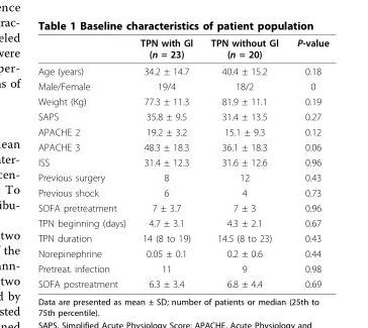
<table><thead><tr><td></td><td>TPN with Gl (n = 23)</td><td>TPN without Gl (n = 20)</td><td>P-value</td></tr></thead><tbody><tr><td>Age (years)</td><td>34.2 ± 14.7</td><td>40.4 ± 15.2</td><td>0.18</td></tr><tr><td>Male/Female</td><td>19/4</td><td>18/2</td><td>0</td></tr><tr><td>Weight (Kg)</td><td>77.3 ± 11.3</td><td>81.9 ± 11.1</td><td>0.19</td></tr><tr><td>SAPS</td><td>35.8 ± 9.5</td><td>31.4 ± 13.5</td><td>0.27</td></tr><tr><td>APACHE 2</td><td>19.2 ± 3.2</td><td>15.1 ± 9.3</td><td>0.12</td></tr><tr><td>APACHE 3</td><td>48.3 ± 18.3</td><td>36.1 ± 18.3</td><td>0.06</td></tr><tr><td>ISS</td><td>31.4 ± 12.3</td><td>31.6 ± 12.6</td><td>0.96</td></tr><tr><td>Previous surgery</td><td>8</td><td>12</td><td>0.43</td></tr><tr><td>Previous shock</td><td>6</td><td>4</td><td>0.73</td></tr><tr><td>SOFA pretreatment</td><td>7 ± 3.7</td><td>7 ± 3</td><td>0.96</td></tr><tr><td>TPN beginning (days)</td><td>4.7 ± 3.1</td><td>4.3 ± 2.1</td><td>0.67</td></tr><tr><td>TPN duration</td><td>14 (8 to 19)</td><td>14.5 (8 to 23)</td><td>0.43</td></tr><tr><td>Norepinephrine</td><td>0.05 ± 0.1</td><td>0.2 ± 0.6</td><td>0.44</td></tr><tr><td>Pretreat. infection</td><td>11</td><td>9</td><td>0.98</td></tr><tr><td>SOFA postreatment</td><td>6.3 ± 3.4</td><td>6.8 ± 4.4</td><td>0.69</td></tr></tbody></table>